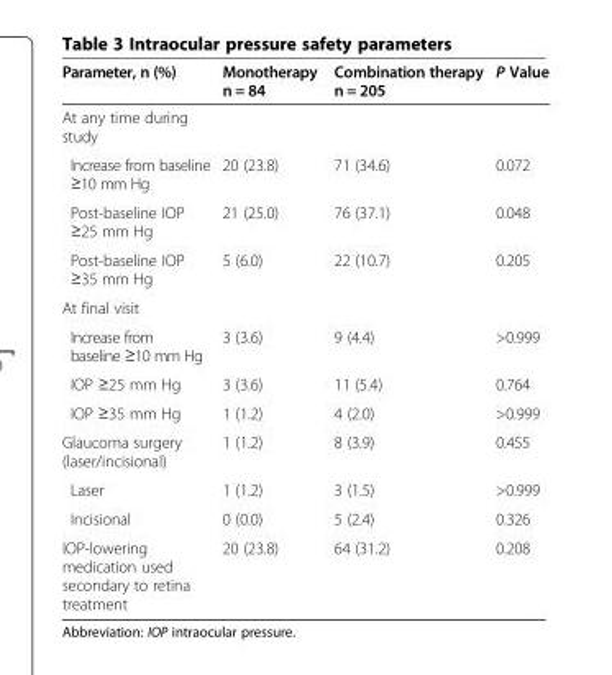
<table><thead><tr><td>Parameter, n (%)</td><td>Monotherapy n = 84</td><td>Combination therapy n = 205</td><td>P Value</td></tr></thead><tbody><tr><td colspan="4">At any time during study</td></tr><tr><td>Increase from baseline ≥10 mm Hg</td><td>20 (23.8)</td><td>71 (34.6)</td><td>0.072</td></tr><tr><td>Post-baseline IOP ≥25 mm Hg</td><td>21 (25.0)</td><td>76 (37.1)</td><td>0.048</td></tr><tr><td>Post-baseline IOP ≥35 mm Hg</td><td>5 (6.0)</td><td>22 (10.7)</td><td>0.205</td></tr><tr><td colspan="4">At final visit</td></tr><tr><td>Increase from baseline ≥10 mm Hg</td><td>3 (3.6)</td><td>9 (4.4)</td><td>&gt;0.999</td></tr><tr><td>IOP ≥25 mm Hg</td><td>3 (3.6)</td><td>11 (5.4)</td><td>0.764</td></tr><tr><td>IOP ≥35 mm Hg</td><td>1 (1.2)</td><td>4 (2.0)</td><td>&gt;0.999</td></tr><tr><td>Glaucoma surgery (laser/incisional)</td><td>1 (1.2)</td><td>8 (3.9)</td><td>0.455</td></tr><tr><td>Laser</td><td>1 (1.2)</td><td>3 (1.5)</td><td>&gt;0.999</td></tr><tr><td>Incisional</td><td>0 (0.0)</td><td>5 (2.4)</td><td>0.326</td></tr><tr><td>IOP-lowering medication used secondary to retina treatment</td><td>20 (23.8)</td><td>64 (31.2)</td><td>0.208</td></tr></tbody></table>